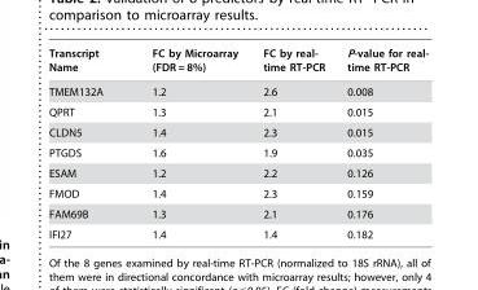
<table><thead><tr><td>Transcript Name</td><td>FC by Microarray (FDR = 8%)</td><td>FC by real- time RT-PCR</td><td>P-value for real- time RT-PCR</td></tr></thead><tbody><tr><td>TMEM132A</td><td>1.2</td><td>2.6</td><td>0.008</td></tr><tr><td>QPRT</td><td>1.3</td><td>2.1</td><td>0.015</td></tr><tr><td>CLDN5</td><td>1.4</td><td>2.3</td><td>0.015</td></tr><tr><td>PTGDS</td><td>1.6</td><td>1.9</td><td>0.035</td></tr><tr><td>ESAM</td><td>1.2</td><td>2.2</td><td>0.126</td></tr><tr><td>FMOD</td><td>1.4</td><td>2.3</td><td>0.159</td></tr><tr><td>FAM69B</td><td>1.3</td><td>2.1</td><td>0.176</td></tr><tr><td>IFI27</td><td>1.4</td><td>1.4</td><td>0.182</td></tr></tbody></table>